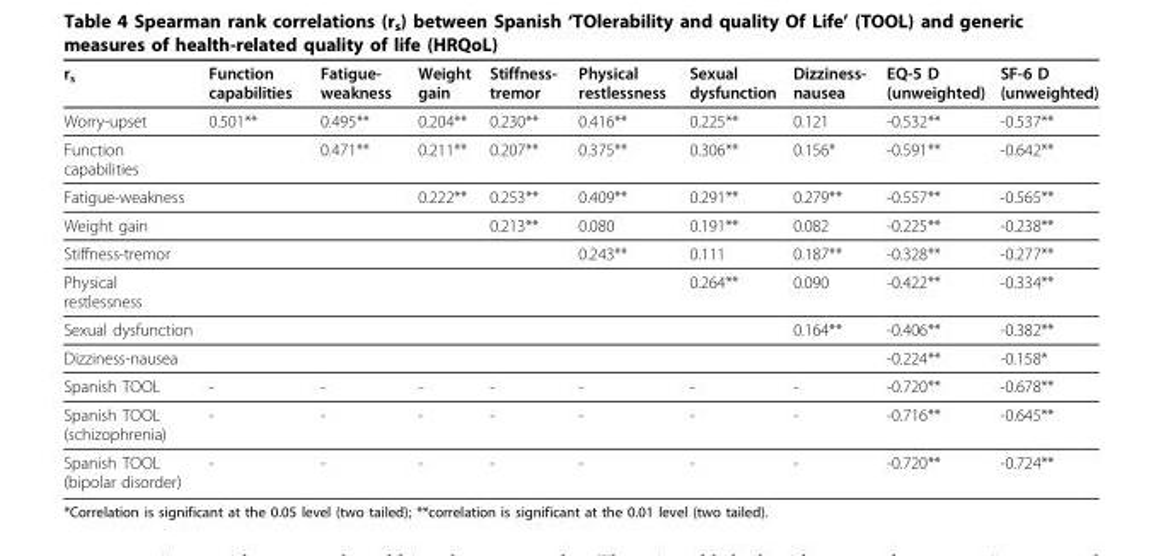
<table><thead><tr><td>r<sub>s</sub></td><td>Function capabilities</td><td>Fatigue- weakness</td><td>Weight gain</td><td>Stiffness- tremor</td><td>Physical restlessness</td><td>Sexual dysfunction</td><td>Dizziness- nausea</td><td>EQ-5 D (unweighted)</td><td>SF-6 D (unweighted)</td></tr></thead><tbody><tr><td>Worry-upset</td><td>0.501**</td><td>0.495**</td><td>0.204**</td><td>0.230**</td><td>0.416**</td><td>0.225**</td><td>0.121</td><td>-0.532**</td><td>-0.537**</td></tr><tr><td>Function capabilities</td><td></td><td>0.471**</td><td>0.211**</td><td>0.207**</td><td>0.375**</td><td>0.306**</td><td>0.156*</td><td>-0.591**</td><td>-0.642**</td></tr><tr><td>Fatigue-weakness</td><td></td><td></td><td>0.222**</td><td>0.253**</td><td>0.409**</td><td>0.291**</td><td>0.279**</td><td>-0.557**</td><td>-0.565**</td></tr><tr><td>Weight gain</td><td></td><td></td><td></td><td>0.213**</td><td>0.080</td><td>0.191**</td><td>0.082</td><td>-0.225**</td><td>-0.238**</td></tr><tr><td>Stiffness-tremor</td><td></td><td></td><td></td><td></td><td>0.243**</td><td>0.111</td><td>0.187**</td><td>-0.328**</td><td>-0.277**</td></tr><tr><td>Physical restlessness</td><td></td><td></td><td></td><td></td><td></td><td>0.264**</td><td>0.090</td><td>-0.422**</td><td>-0.334**</td></tr><tr><td>Sexual dysfunction</td><td></td><td></td><td></td><td></td><td></td><td></td><td>0.164**</td><td>-0.406**</td><td>-0.382**</td></tr><tr><td>Dizziness-nausea</td><td></td><td></td><td></td><td></td><td></td><td></td><td></td><td>-0.224**</td><td>-0.158*</td></tr><tr><td>Spanish TOOL</td><td>-</td><td>-</td><td>-</td><td>-</td><td>-</td><td>-</td><td>-</td><td>-0.720**</td><td>-0.678**</td></tr><tr><td>Spanish TOOL (schizophrenia)</td><td>-</td><td>-</td><td>-</td><td>-</td><td>-</td><td>-</td><td>-</td><td>-0.716**</td><td>-0.645**</td></tr><tr><td>Spanish TOOL (bipolar disorder)</td><td>-</td><td>-</td><td>-</td><td>-</td><td>-</td><td>-</td><td>-</td><td>-0.720**</td><td>-0.724**</td></tr></tbody></table>